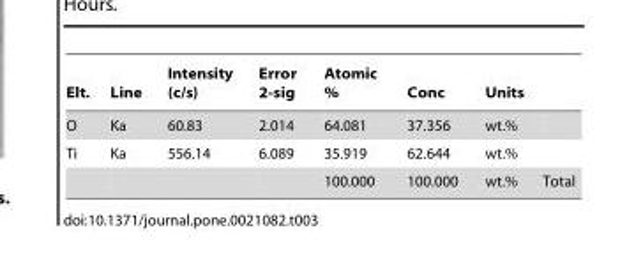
<table><thead><tr><td>Elt.</td><td>Line</td><td>Intensity (c/s)</td><td>Error 2-sig</td><td>Atomic %</td><td>Conc</td><td>Units</td><td></td></tr></thead><tbody><tr><td>O</td><td>Ka</td><td>60.83</td><td>2.014</td><td>64.081</td><td>37.356</td><td>wt.%</td><td></td></tr><tr><td rowspan="2">Ti</td><td>Ka</td><td>556.14</td><td>6.089</td><td>35.919</td><td>62.644</td><td>wt.%</td><td></td></tr><tr><td></td><td></td><td></td><td>100.000</td><td>100.000</td><td>wt.%</td><td>Total</td></tr></tbody></table>